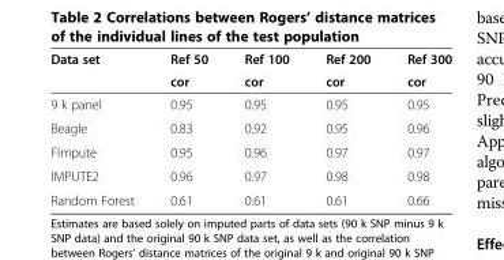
<table><thead><tr><td rowspan="2">Data set</td><td rowspan="2">Ref 50 cor</td><td rowspan="2">Ref 100 cor</td><td rowspan="2">Ref 200 cor</td><td rowspan="2">Ref 300 cor</td></tr><tr></tr></thead><tbody><tr><td>9 k panel</td><td>0.95</td><td>0.95</td><td>0.95</td><td>0.95</td></tr><tr><td>Beagle</td><td>0.83</td><td>0.92</td><td>0.95</td><td>0.96</td></tr><tr><td>FImpute</td><td>0.95</td><td>0.96</td><td>0.97</td><td>0.97</td></tr><tr><td>IMPUTE2</td><td>0.96</td><td>0.97</td><td>0.98</td><td>0.98</td></tr><tr><td>Random Forest</td><td>0.61</td><td>0.61</td><td>0.61</td><td>0.66</td></tr></tbody></table>